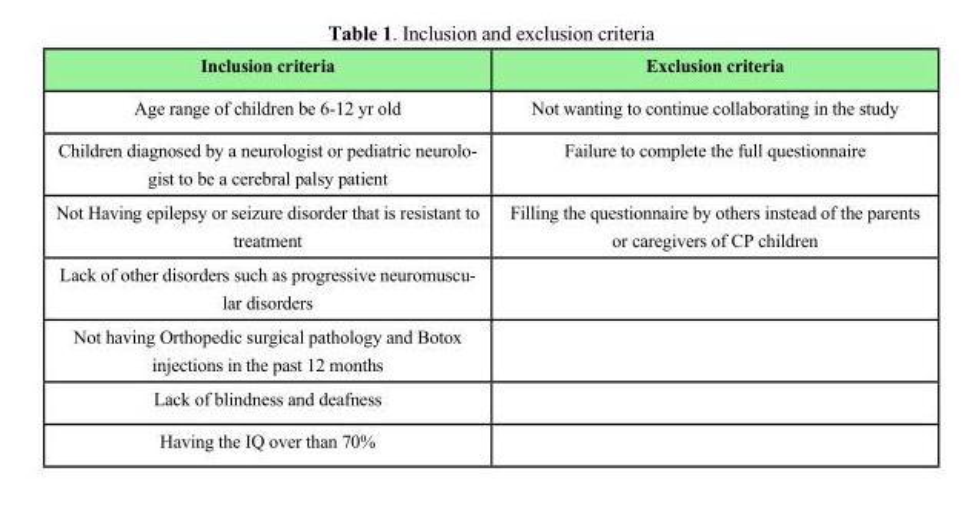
<table><thead><tr><td>Inclusion criteria</td><td>Exclusion criteria</td></tr></thead><tbody><tr><td>Age range of children be 6-12 yr old</td><td>Not wanting to continue collaborating in the study</td></tr><tr><td>Children diagnosed by a neurologist or pediatric neurolo- gist to be a cerebral palsy patient</td><td>Failure to complete the full questionnaire</td></tr><tr><td>Not Having epilepsy or seizure disorder that is resistant to treatment</td><td>Filling the questionnaire by others instead of the parents or caregivers of CP children</td></tr><tr><td colspan="2">Lack of other disorders such as progressive neuromuscu- lar disorders</td></tr><tr><td colspan="2">Not having Orthopedic surgical pathology and Botox injections in the past 12 months</td></tr><tr><td colspan="2">Lack of blindness and deafness</td></tr><tr><td>Having the IQ over than 70%</td><td></td></tr></tbody></table>